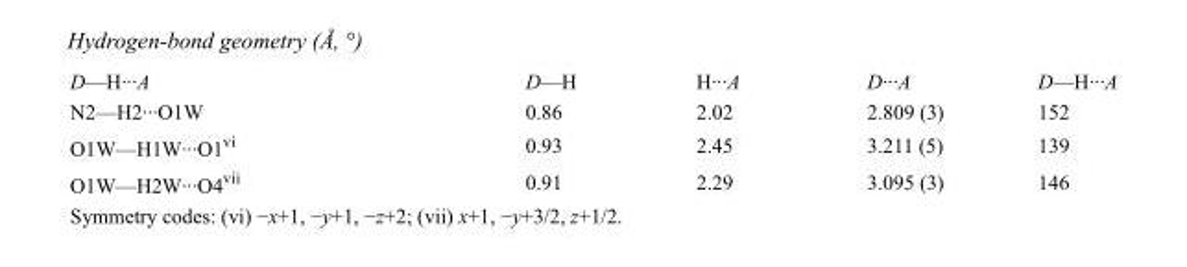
<table><tbody><tr><td>D—H···A</td><td>D—H</td><td>H···A</td><td>D···A</td><td>D—H···A</td></tr><tr><td>N2—H2···O1W</td><td>0.86</td><td>2.02</td><td>2.809 (3)</td><td>152</td></tr><tr><td>O1W—H1W···O1<sup>vi</sup></td><td>0.93</td><td>2.45</td><td>3.211 (5)</td><td>139</td></tr><tr><td>O1W—H2W···O4<sup>vii</sup></td><td>0.91</td><td>2.29</td><td>3.095 (3)</td><td>146</td></tr></tbody></table>